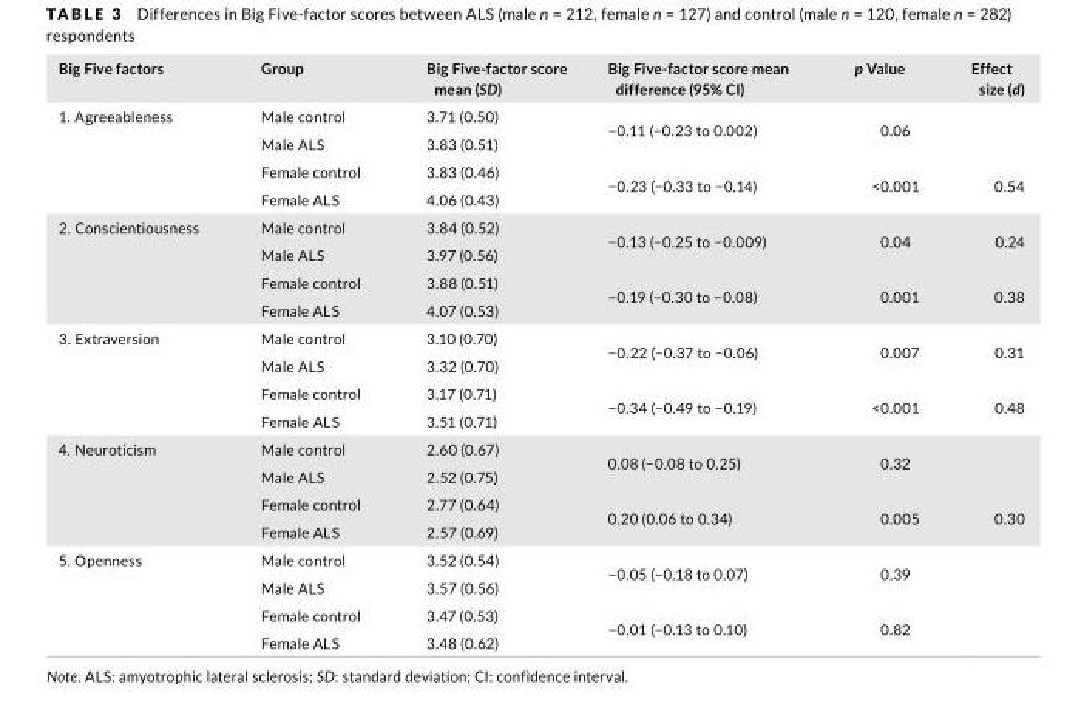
<table><tbody><tr><td>Big Five factors</td><td>Group</td><td>Big Five‐factor score mean (SD)</td><td>Big Five‐factor score mean difference (95% CI)</td><td>p Value</td><td>Effect size (d)</td></tr><tr><td rowspan="4">1. Agreeableness</td><td>Male control</td><td>3.71 (0.50)</td><td rowspan="2">−0.11 (−0.23 to 0.002)</td><td rowspan="2">0.06</td><td rowspan="2"></td></tr><tr><td>Male ALS</td><td>3.83 (0.51)</td></tr><tr><td>Female control</td><td>3.83 (0.46)</td><td rowspan="2">−0.23 (−0.33 to −0.14)</td><td rowspan="2">&lt;0.001</td><td rowspan="2">0.54</td></tr><tr><td>Female ALS</td><td>4.06 (0.43)</td></tr><tr><td rowspan="4">2. Conscientiousness</td><td>Male control</td><td>3.84 (0.52)</td><td rowspan="2">−0.13 (−0.25 to −0.009)</td><td rowspan="2">0.04</td><td rowspan="2">0.24</td></tr><tr><td>Male ALS</td><td>3.97 (0.56)</td></tr><tr><td>Female control</td><td>3.88 (0.51)</td><td rowspan="2">−0.19 (−0.30 to −0.08)</td><td rowspan="2">0.001</td><td rowspan="2">0.38</td></tr><tr><td>Female ALS</td><td>4.07 (0.53)</td></tr><tr><td rowspan="4">3. Extraversion</td><td>Male control</td><td>3.10 (0.70)</td><td rowspan="2">−0.22 (−0.37 to −0.06)</td><td rowspan="2">0.007</td><td rowspan="2">0.31</td></tr><tr><td>Male ALS</td><td>3.32 (0.70)</td></tr><tr><td>Female control</td><td>3.17 (0.71)</td><td rowspan="2">−0.34 (−0.49 to −0.19)</td><td rowspan="2">&lt;0.001</td><td rowspan="2">0.48</td></tr><tr><td>Female ALS</td><td>3.51 (0.71)</td></tr><tr><td rowspan="4">4. Neuroticism</td><td>Male control</td><td>2.60 (0.67)</td><td rowspan="2">0.08 (−0.08 to 0.25)</td><td rowspan="2">0.32</td><td rowspan="2"></td></tr><tr><td>Male ALS</td><td>2.52 (0.75)</td></tr><tr><td>Female control</td><td>2.77 (0.64)</td><td rowspan="2">0.20 (0.06 to 0.34)</td><td rowspan="2">0.005</td><td rowspan="2">0.30</td></tr><tr><td>Female ALS</td><td>2.57 (0.69)</td></tr><tr><td rowspan="4">5. Openness</td><td>Male control</td><td>3.52 (0.54)</td><td rowspan="2">−0.05 (−0.18 to 0.07)</td><td rowspan="2">0.39</td><td rowspan="2"></td></tr><tr><td>Male ALS</td><td>3.57 (0.56)</td></tr><tr><td>Female control</td><td>3.47 (0.53)</td><td rowspan="2">−0.01 (−0.13 to 0.10)</td><td rowspan="2">0.82</td><td rowspan="2"></td></tr><tr><td>Female ALS</td><td>3.48 (0.62)</td></tr></tbody></table>